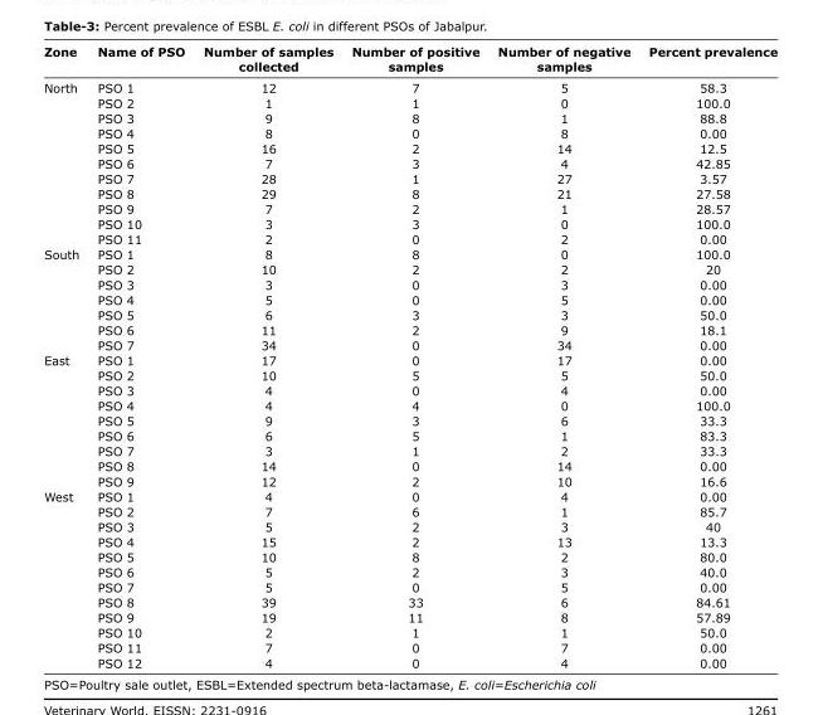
<table><thead><tr><td>Zone</td><td>Name of PSO</td><td>Number of samples collected</td><td>Number of positive samples</td><td>Number of negative samples</td><td>Percent prevalence</td></tr></thead><tbody><tr><td rowspan="11">North</td><td>PSO 1</td><td>12</td><td>7</td><td>5</td><td>58.3</td></tr><tr><td>PSO 2</td><td>1</td><td>1</td><td>0</td><td>100.0</td></tr><tr><td>PSO 3</td><td>9</td><td>8</td><td>1</td><td>88.8</td></tr><tr><td>PSO 4</td><td>8</td><td>0</td><td>8</td><td>0.00</td></tr><tr><td>PSO 5</td><td>16</td><td>2</td><td>14</td><td>12.5</td></tr><tr><td>PSO 6</td><td>7</td><td>3</td><td>4</td><td>42.85</td></tr><tr><td>PSO 7</td><td>28</td><td>1</td><td>27</td><td>3.57</td></tr><tr><td>PSO 8</td><td>29</td><td>8</td><td>21</td><td>27.58</td></tr><tr><td>PSO 9</td><td>7</td><td>2</td><td>1</td><td>28.57</td></tr><tr><td>PSO 10</td><td>3</td><td>3</td><td>0</td><td>100.0</td></tr><tr><td>PSO 11</td><td>2</td><td>0</td><td>2</td><td>0.00</td></tr><tr><td rowspan="7">South</td><td>PSO 1</td><td>8</td><td>8</td><td>0</td><td>100.0</td></tr><tr><td>PSO 2</td><td>10</td><td>2</td><td>2</td><td>20</td></tr><tr><td>PSO 3</td><td>3</td><td>0</td><td>3</td><td>0.00</td></tr><tr><td>PSO 4</td><td>5</td><td>0</td><td>5</td><td>0.00</td></tr><tr><td>PSO 5</td><td>6</td><td>3</td><td>3</td><td>50.0</td></tr><tr><td>PSO 6</td><td>11</td><td>2</td><td>9</td><td>18.1</td></tr><tr><td>PSO 7</td><td>34</td><td>0</td><td>34</td><td>0.00</td></tr><tr><td rowspan="9">East</td><td>PSO 1</td><td>17</td><td>0</td><td>17</td><td>0.00</td></tr><tr><td>PSO 2</td><td>10</td><td>5</td><td>5</td><td>50.0</td></tr><tr><td>PSO 3</td><td>4</td><td>0</td><td>4</td><td>0.00</td></tr><tr><td>PSO 4</td><td>4</td><td>4</td><td>0</td><td>100.0</td></tr><tr><td>PSO 5</td><td>9</td><td>3</td><td>6</td><td>33.3</td></tr><tr><td>PSO 6</td><td>6</td><td>5</td><td>1</td><td>83.3</td></tr><tr><td>PSO 7</td><td>3</td><td>1</td><td>2</td><td>33.3</td></tr><tr><td>PSO 8</td><td>14</td><td>0</td><td>14</td><td>0.00</td></tr><tr><td>PSO 9</td><td>12</td><td>2</td><td>10</td><td>16.6</td></tr><tr><td rowspan="12">West</td><td>PSO 1</td><td>4</td><td>0</td><td>4</td><td>0.00</td></tr><tr><td>PSO 2</td><td>7</td><td>6</td><td>1</td><td>85.7</td></tr><tr><td>PSO 3</td><td>5</td><td>2</td><td>3</td><td>40</td></tr><tr><td>PSO 4</td><td>15</td><td>2</td><td>13</td><td>13.3</td></tr><tr><td>PSO 5</td><td>10</td><td>8</td><td>2</td><td>80.0</td></tr><tr><td>PSO 6</td><td>5</td><td>2</td><td>3</td><td>40.0</td></tr><tr><td>PSO 7</td><td>5</td><td>0</td><td>5</td><td>0.00</td></tr><tr><td>PSO 8</td><td>39</td><td>33</td><td>6</td><td>84.61</td></tr><tr><td>PSO 9</td><td>19</td><td>11</td><td>8</td><td>57.89</td></tr><tr><td>PSO 10</td><td>2</td><td>1</td><td>1</td><td>50.0</td></tr><tr><td>PSO 11</td><td>7</td><td>0</td><td>7</td><td>0.00</td></tr><tr><td>PSO 12</td><td>4</td><td>0</td><td>4</td><td>0.00</td></tr></tbody></table>